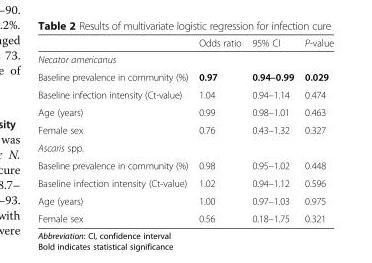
<table><thead><tr><td></td><td>Odds ratio</td><td>95% CI</td><td>P-value</td></tr></thead><tbody><tr><td colspan="4">Necator americanus</td></tr><tr><td>Baseline prevalence in community (%)</td><td>0.97</td><td>0.94–0.99</td><td>0.029</td></tr><tr><td>Baseline infection intensity (Ct-value)</td><td>1.04</td><td>0.94–1.14</td><td>0.474</td></tr><tr><td>Age (years)</td><td>0.99</td><td>0.98–1.01</td><td>0.463</td></tr><tr><td>Female sex</td><td>0.76</td><td>0.43–1.32</td><td>0.327</td></tr><tr><td colspan="4">Ascaris spp.</td></tr><tr><td>Baseline prevalence in community (%)</td><td>0.98</td><td>0.95–1.02</td><td>0.448</td></tr><tr><td>Baseline infection intensity (Ct-value)</td><td>1.02</td><td>0.94–1.12</td><td>0.596</td></tr><tr><td>Age (years)</td><td>1.00</td><td>0.97–1.03</td><td>0.975</td></tr><tr><td>Female sex</td><td>0.56</td><td>0.18–1.75</td><td>0.321</td></tr></tbody></table>